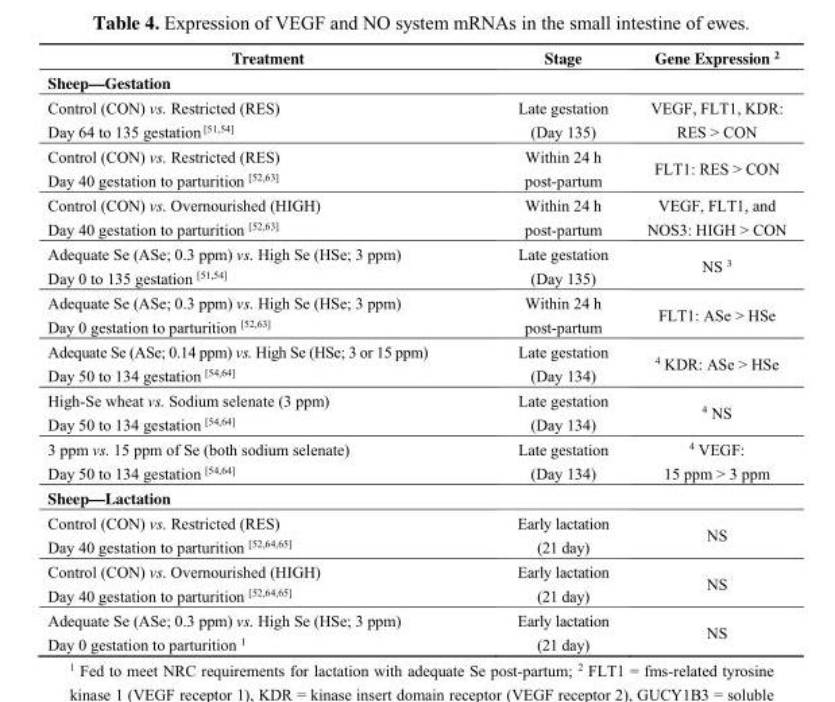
<table><thead><tr><td>Treatment</td><td>Stage</td><td>Gene Expression <sup>2</sup></td></tr></thead><tbody><tr><td colspan="3">Sheep—Gestation</td></tr><tr><td>Control (CON) vs. Restricted (RES) Day 64 to 135 gestation <sup>[51,54]</sup></td><td>Late gestation (Day 135)</td><td>VEGF, FLT1, KDR: RES &gt; CON</td></tr><tr><td>Control (CON) vs. Restricted (RES) Day 40 gestation to parturition <sup>[52,63]</sup></td><td>Within 24 h post-partum</td><td>FLT1: RES &gt; CON</td></tr><tr><td>Control (CON) vs. Overnourished (HIGH) Day 40 gestation to parturition <sup>[52,63]</sup></td><td>Within 24 h post-partum</td><td>VEGF, FLT1, and NOS3: HIGH &gt; CON</td></tr><tr><td>Adequate Se (ASe; 0.3 ppm) vs. High Se (HSe; 3 ppm) Day 0 to 135 gestation <sup>[51,54]</sup></td><td>Late gestation (Day 135)</td><td>NS <sup>3</sup></td></tr><tr><td>Adequate Se (ASe; 0.3 ppm) vs. High Se (HSe; 3 ppm) Day 0 gestation to parturition <sup>[52,63]</sup></td><td>Within 24 h post-partum</td><td>FLT1: ASe &gt; HSe</td></tr><tr><td>Adequate Se (ASe; 0.14 ppm) vs. High Se (HSe; 3 or 15 ppm) Day 50 to 134 gestation <sup>[54,64]</sup></td><td>Late gestation (Day 134)</td><td><sup>4</sup> KDR: ASe &gt; HSe</td></tr><tr><td>High-Se wheat vs. Sodium selenate (3 ppm) Day 50 to 134 gestation <sup>[54,64]</sup></td><td>Late gestation (Day 134)</td><td><sup>4</sup> NS</td></tr><tr><td>3 ppm vs. 15 ppm of Se (both sodium selenate) Day 50 to 134 gestation <sup>[54,64]</sup></td><td>Late gestation (Day 134)</td><td><sup>4</sup> VEGF: 15 ppm &gt; 3 ppm</td></tr><tr><td colspan="3">Sheep—Lactation</td></tr><tr><td>Control (CON) vs. Restricted (RES) Day 40 gestation to parturition <sup>[52,64,65]</sup></td><td>Early lactation (21 day)</td><td>NS</td></tr><tr><td>Control (CON) vs. Overnourished (HIGH) Day 40 gestation to parturition <sup>[52,64,65]</sup></td><td>Early lactation (21 day)</td><td>NS</td></tr><tr><td>Adequate Se (ASe; 0.3 ppm) vs. High Se (HSe; 3 ppm) Day 0 gestation to parturition <sup>1</sup></td><td>Early lactation (21 day)</td><td>NS</td></tr></tbody></table>